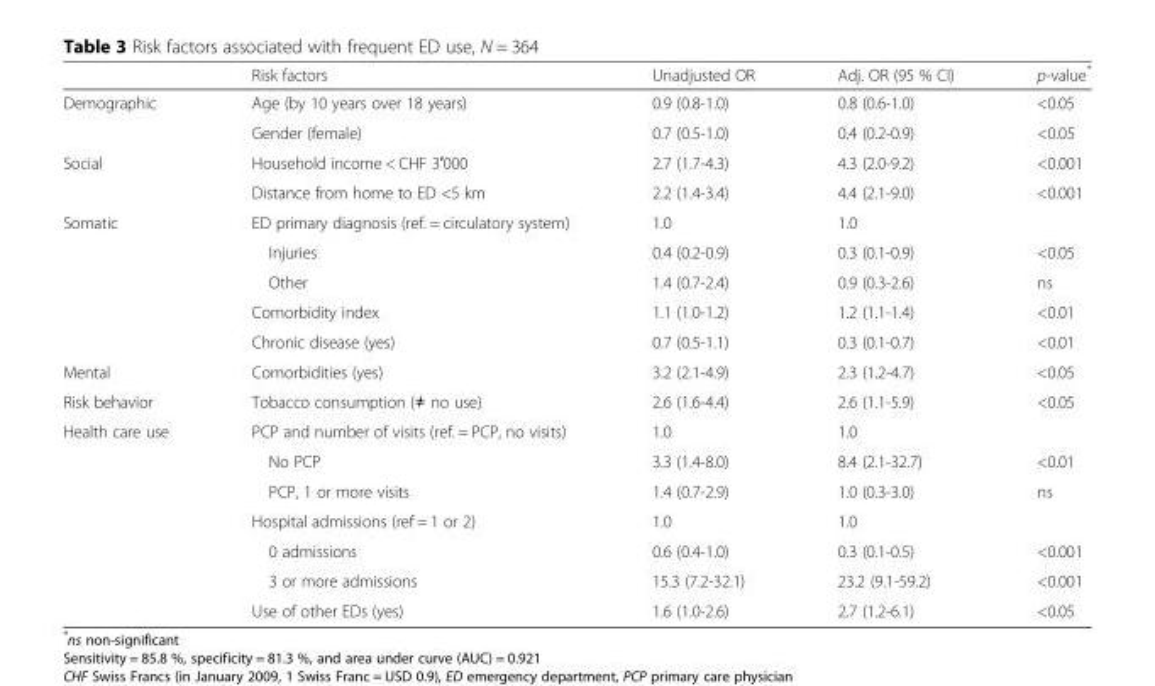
<table><thead><tr><td></td><td>Risk factors</td><td>Unadjusted OR</td><td>Adj. OR (95 % CI)</td><td>p-value*</td></tr></thead><tbody><tr><td rowspan="2">Demographic</td><td>Age (by 10 years over 18 years)</td><td>0.9 (0.8-1.0)</td><td>0.8 (0.6-1.0)</td><td>&lt;0.05</td></tr><tr><td>Gender (female)</td><td>0.7 (0.5-1.0)</td><td>0.4 (0.2-0.9)</td><td>&lt;0.05</td></tr><tr><td rowspan="2">Social</td><td>Household income &lt; CHF 3′000</td><td>2.7 (1.7-4.3)</td><td>4.3 (2.0-9.2)</td><td>&lt;0.001</td></tr><tr><td>Distance from home to ED &lt;5 km</td><td>2.2 (1.4-3.4)</td><td>4.4 (2.1-9.0)</td><td>&lt;0.001</td></tr><tr><td rowspan="5">Somatic</td><td>ED primary diagnosis (ref. = circulatory system)</td><td>1.0</td><td>1.0</td><td></td></tr><tr><td>Injuries</td><td>0.4 (0.2-0.9)</td><td>0.3 (0.1-0.9)</td><td>&lt;0.05</td></tr><tr><td>Other</td><td>1.4 (0.7-2.4)</td><td>0.9 (0.3-2.6)</td><td>ns</td></tr><tr><td>Comorbidity index</td><td>1.1 (1.0-1.2)</td><td>1.2 (1.1-1.4)</td><td>&lt;0.01</td></tr><tr><td>Chronic disease (yes)</td><td>0.7 (0.5-1.1)</td><td>0.3 (0.1-0.7)</td><td>&lt;0.01</td></tr><tr><td>Mental</td><td>Comorbidities (yes)</td><td>3.2 (2.1-4.9)</td><td>2.3 (1.2-4.7)</td><td>&lt;0.05</td></tr><tr><td>Risk behavior</td><td>Tobacco consumption (≠ no use)</td><td>2.6 (1.6-4.4)</td><td>2.6 (1.1-5.9)</td><td>&lt;0.05</td></tr><tr><td rowspan="7">Health care use</td><td>PCP and number of visits (ref. = PCP, no visits)</td><td>1.0</td><td>1.0</td><td></td></tr><tr><td>No PCP</td><td>3.3 (1.4-8.0)</td><td>8.4 (2.1-32.7)</td><td>&lt;0.01</td></tr><tr><td>PCP, 1 or more visits</td><td>1.4 (0.7-2.9)</td><td>1.0 (0.3-3.0)</td><td>ns</td></tr><tr><td>Hospital admissions (ref = 1 or 2)</td><td>1.0</td><td>1.0</td><td></td></tr><tr><td>0 admissions</td><td>0.6 (0.4-1.0)</td><td>0.3 (0.1-0.5)</td><td>&lt;0.001</td></tr><tr><td>3 or more admissions</td><td>15.3 (7.2-32.1)</td><td>23.2 (9.1-59.2)</td><td>&lt;0.001</td></tr><tr><td>Use of other EDs (yes)</td><td>1.6 (1.0-2.6)</td><td>2.7 (1.2-6.1)</td><td>&lt;0.05</td></tr></tbody></table>